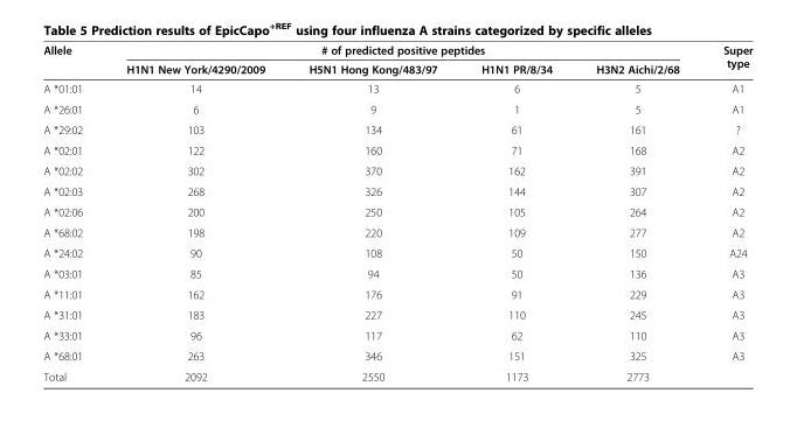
<table><thead><tr><td rowspan="2">Allele</td><td colspan="4"># of predicted positive peptides</td><td rowspan="2">Super type</td></tr><tr><td>H1N1 New York/4290/2009</td><td>H5N1 Hong Kong/483/97</td><td>H1N1 PR/8/34</td><td>H3N2 Aichi/2/68</td></tr></thead><tbody><tr><td>A *01:01</td><td>14</td><td>13</td><td>6</td><td>5</td><td>A1</td></tr><tr><td>A *26:01</td><td>6</td><td>9</td><td>1</td><td>5</td><td>A1</td></tr><tr><td>A *29:02</td><td>103</td><td>134</td><td>61</td><td>161</td><td>?</td></tr><tr><td>A *02:01</td><td>122</td><td>160</td><td>71</td><td>168</td><td>A2</td></tr><tr><td>A *02:02</td><td>302</td><td>370</td><td>162</td><td>391</td><td>A2</td></tr><tr><td>A *02:03</td><td>268</td><td>326</td><td>144</td><td>307</td><td>A2</td></tr><tr><td>A *02:06</td><td>200</td><td>250</td><td>105</td><td>264</td><td>A2</td></tr><tr><td>A *68:02</td><td>198</td><td>220</td><td>109</td><td>277</td><td>A2</td></tr><tr><td>A *24:02</td><td>90</td><td>108</td><td>50</td><td>150</td><td>A24</td></tr><tr><td>A *03:01</td><td>85</td><td>94</td><td>50</td><td>136</td><td>A3</td></tr><tr><td>A *11:01</td><td>162</td><td>176</td><td>91</td><td>229</td><td>A3</td></tr><tr><td>A *31:01</td><td>183</td><td>227</td><td>110</td><td>245</td><td>A3</td></tr><tr><td>A *33:01</td><td>96</td><td>117</td><td>62</td><td>110</td><td>A3</td></tr><tr><td>A *68:01</td><td>263</td><td>346</td><td>151</td><td>325</td><td>A3</td></tr><tr><td>Total</td><td>2092</td><td>2550</td><td>1173</td><td>2773</td><td></td></tr></tbody></table>